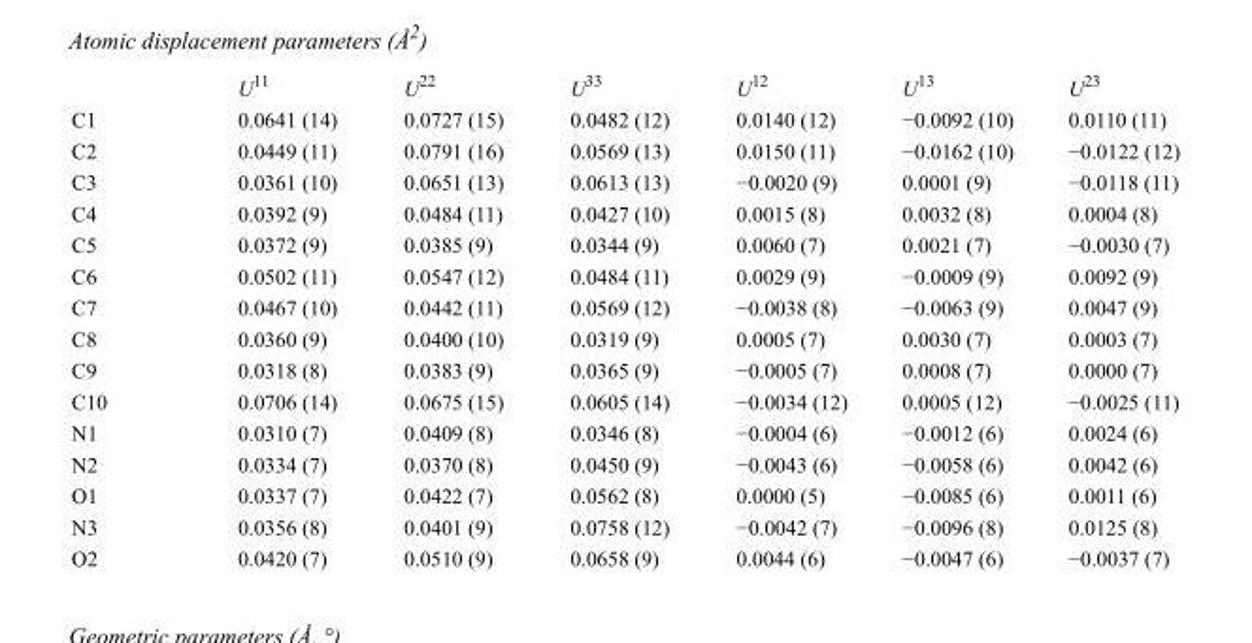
<table><thead><tr><td></td><td>U<sup>11</sup></td><td>U<sup>22</sup></td><td>U<sup>33</sup></td><td>U<sup>12</sup></td><td>U<sup>13</sup></td><td>U<sup>23</sup></td></tr></thead><tbody><tr><td>C1</td><td>0.0641 (14)</td><td>0.0727 (15)</td><td>0.0482 (12)</td><td>0.0140 (12)</td><td>−0.0092 (10)</td><td>0.0110 (11)</td></tr><tr><td>C2</td><td>0.0449 (11)</td><td>0.0791 (16)</td><td>0.0569 (13)</td><td>0.0150 (11)</td><td>−0.0162 (10)</td><td>−0.0122 (12)</td></tr><tr><td>C3</td><td>0.0361 (10)</td><td>0.0651 (13)</td><td>0.0613 (13)</td><td>−0.0020 (9)</td><td>0.0001 (9)</td><td>−0.0118 (11)</td></tr><tr><td>C4</td><td>0.0392 (9)</td><td>0.0484 (11)</td><td>0.0427 (10)</td><td>0.0015 (8)</td><td>0.0032 (8)</td><td>0.0004 (8)</td></tr><tr><td>C5</td><td>0.0372 (9)</td><td>0.0385 (9)</td><td>0.0344 (9)</td><td>0.0060 (7)</td><td>0.0021 (7)</td><td>−0.0030 (7)</td></tr><tr><td>C6</td><td>0.0502 (11)</td><td>0.0547 (12)</td><td>0.0484 (11)</td><td>0.0029 (9)</td><td>−0.0009 (9)</td><td>0.0092 (9)</td></tr><tr><td>C7</td><td>0.0467 (10)</td><td>0.0442 (11)</td><td>0.0569 (12)</td><td>−0.0038 (8)</td><td>−0.0063 (9)</td><td>0.0047 (9)</td></tr><tr><td>C8</td><td>0.0360 (9)</td><td>0.0400 (10)</td><td>0.0319 (9)</td><td>0.0005 (7)</td><td>0.0030 (7)</td><td>0.0003 (7)</td></tr><tr><td>C9</td><td>0.0318 (8)</td><td>0.0383 (9)</td><td>0.0365 (9)</td><td>−0.0005 (7)</td><td>0.0008 (7)</td><td>0.0000 (7)</td></tr><tr><td>C10</td><td>0.0706 (14)</td><td>0.0675 (15)</td><td>0.0605 (14)</td><td>−0.0034 (12)</td><td>0.0005 (12)</td><td>−0.0025 (11)</td></tr><tr><td>N1</td><td>0.0310 (7)</td><td>0.0409 (8)</td><td>0.0346 (8)</td><td>−0.0004 (6)</td><td>−0.0012 (6)</td><td>0.0024 (6)</td></tr><tr><td>N2</td><td>0.0334 (7)</td><td>0.0370 (8)</td><td>0.0450 (9)</td><td>−0.0043 (6)</td><td>−0.0058 (6)</td><td>0.0042 (6)</td></tr><tr><td>O1</td><td>0.0337 (7)</td><td>0.0422 (7)</td><td>0.0562 (8)</td><td>0.0000 (5)</td><td>−0.0085 (6)</td><td>0.0011 (6)</td></tr><tr><td>N3</td><td>0.0356 (8)</td><td>0.0401 (9)</td><td>0.0758 (12)</td><td>−0.0042 (7)</td><td>−0.0096 (8)</td><td>0.0125 (8)</td></tr><tr><td>O2</td><td>0.0420 (7)</td><td>0.0510 (9)</td><td>0.0658 (9)</td><td>0.0044 (6)</td><td>−0.0047 (6)</td><td>−0.0037 (7)</td></tr></tbody></table>